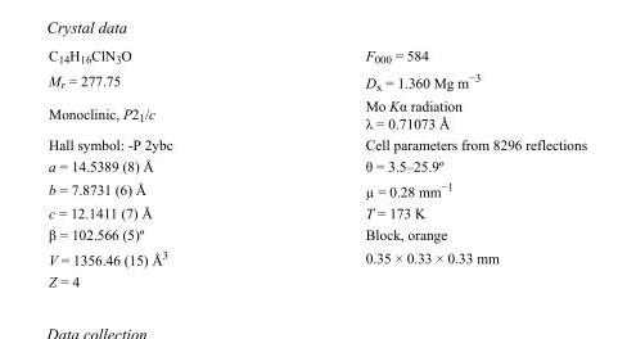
<table><tbody><tr><td>C<sub>14</sub>H<sub>16</sub>ClN<sub>3</sub>O</td><td>F000 = 584</td></tr><tr><td>M<sub>r</sub> = 277.75</td><td>D<sub>x</sub> = 1.360 Mg m<sup>−3</sup></td></tr><tr><td>Monoclinic, P2<sub>1</sub>/c</td><td>Mo Kα radiation λ = 0.71073 Å</td></tr><tr><td>Hall symbol: -P 2ybc</td><td>Cell parameters from 8296 reflections</td></tr><tr><td>a = 14.5389 (8) Å</td><td>θ = 3.5–25.9º</td></tr><tr><td>b = 7.8731 (6) Å</td><td>µ = 0.28 mm<sup>−1</sup></td></tr><tr><td>c = 12.1411 (7) Å</td><td>T = 173 K</td></tr><tr><td>β = 102.566 (5)º</td><td>Block, orange</td></tr><tr><td>V = 1356.46 (15) Å<sup>3</sup></td><td>0.35 × 0.33 × 0.33 mm</td></tr><tr><td>Z = 4</td><td></td></tr></tbody></table>